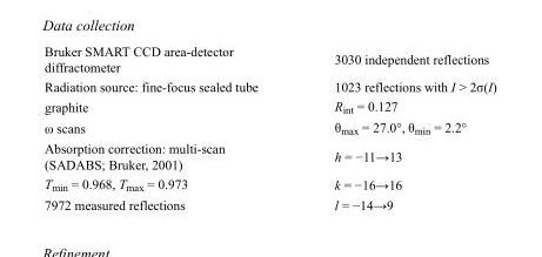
<table><tbody><tr><td>Bruker SMART CCD area-detector diffractometer</td><td>3030 independent reflections</td></tr><tr><td>Radiation source: fine-focus sealed tube</td><td>1023 reflections with I &gt; 2σ(I)</td></tr><tr><td>graphite</td><td>R<sub>int</sub> = 0.127</td></tr><tr><td>ω scans</td><td>θ<sub>max</sub> = 27.0°, θ<sub>min</sub> = 2.2°</td></tr><tr><td>Absorption correction: multi-scan (SADABS; Bruker, 2001)</td><td>h = −11→13</td></tr><tr><td>T<sub>min</sub> = 0.968, T<sub>max</sub> = 0.973</td><td>k = −16→16</td></tr><tr><td>7972 measured reflections</td><td>l = −14→9</td></tr></tbody></table>